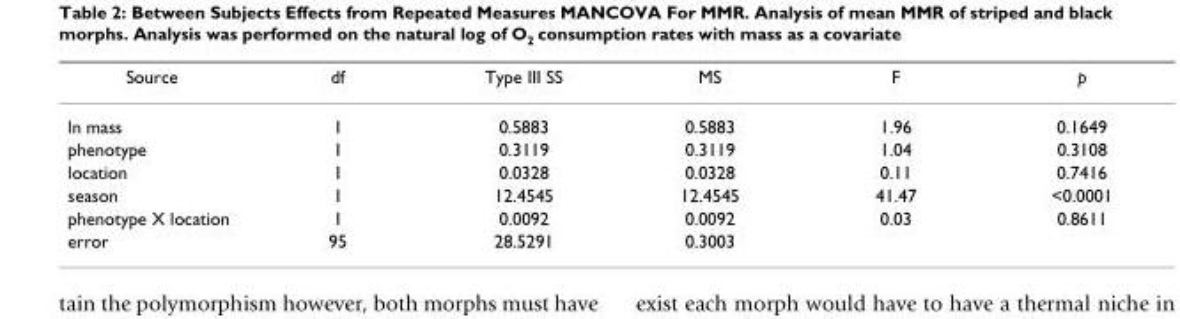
<table><thead><tr><td>Source</td><td>df</td><td>Type III SS</td><td>MS</td><td>F</td><td>p</td></tr></thead><tbody><tr><td>ln mass</td><td>1</td><td>0.5883</td><td>0.5883</td><td>1.96</td><td>0.1649</td></tr><tr><td>phenotype</td><td>1</td><td>0.3119</td><td>0.3119</td><td>1.04</td><td>0.3108</td></tr><tr><td>location</td><td>1</td><td>0.0328</td><td>0.0328</td><td>0.11</td><td>0.7416</td></tr><tr><td>season</td><td>1</td><td>12.4545</td><td>12.4545</td><td>41.47</td><td>&lt;0.0001</td></tr><tr><td>phenotype X location</td><td>1</td><td>0.0092</td><td>0.0092</td><td>0.03</td><td>0.8611</td></tr><tr><td>error</td><td>95</td><td>28.5291</td><td>0.3003</td><td></td><td></td></tr></tbody></table>